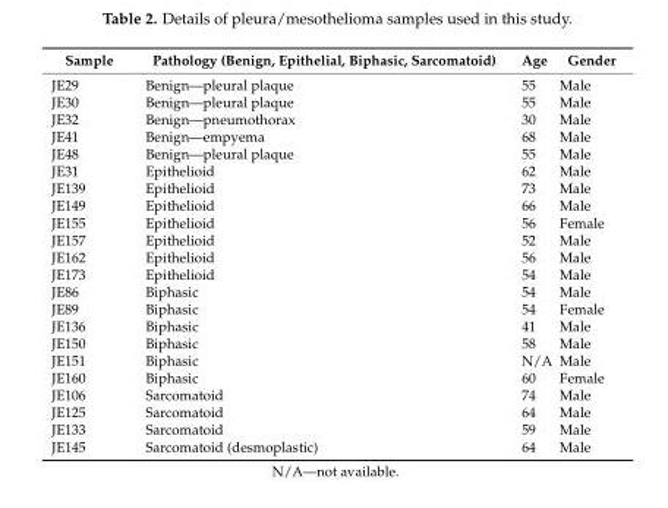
<table><thead><tr><td>Sample</td><td>Pathology (Benign, Epithelial, Biphasic, Sarcomatoid)</td><td>Age</td><td>Gender</td></tr></thead><tbody><tr><td>JE29</td><td>Benign—pleural plaque</td><td>55</td><td>Male</td></tr><tr><td>JE30</td><td>Benign—pleural plaque</td><td>55</td><td>Male</td></tr><tr><td>JE32</td><td>Benign—pneumothorax</td><td>30</td><td>Male</td></tr><tr><td>JE41</td><td>Benign—empyema</td><td>68</td><td>Male</td></tr><tr><td>JE48</td><td>Benign—pleural plaque</td><td>55</td><td>Male</td></tr><tr><td>JE31</td><td>Epithelioid</td><td>62</td><td>Male</td></tr><tr><td>JE139</td><td>Epithelioid</td><td>73</td><td>Male</td></tr><tr><td>JE149</td><td>Epithelioid</td><td>66</td><td>Male</td></tr><tr><td>JE155</td><td>Epithelioid</td><td>56</td><td>Female</td></tr><tr><td>JE157</td><td>Epithelioid</td><td>52</td><td>Male</td></tr><tr><td>JE162</td><td>Epithelioid</td><td>56</td><td>Male</td></tr><tr><td>JE173</td><td>Epithelioid</td><td>54</td><td>Male</td></tr><tr><td>JE86</td><td>Biphasic</td><td>54</td><td>Male</td></tr><tr><td>JE89</td><td>Biphasic</td><td>54</td><td>Female</td></tr><tr><td>JE136</td><td>Biphasic</td><td>41</td><td>Male</td></tr><tr><td>JE150</td><td>Biphasic</td><td>58</td><td>Male</td></tr><tr><td>JE151</td><td>Biphasic</td><td>N/A</td><td>Male</td></tr><tr><td>JE160</td><td>Biphasic</td><td>60</td><td>Female</td></tr><tr><td>JE106</td><td>Sarcomatoid</td><td>74</td><td>Male</td></tr><tr><td>JE125</td><td>Sarcomatoid</td><td>64</td><td>Male</td></tr><tr><td>JE133</td><td>Sarcomatoid</td><td>59</td><td>Male</td></tr><tr><td>JE145</td><td>Sarcomatoid (desmoplastic)</td><td>64</td><td>Male</td></tr></tbody></table>